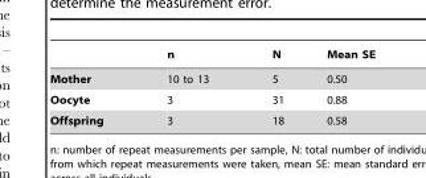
<table><thead><tr><td></td><td>n</td><td>N</td><td>Mean SE</td></tr></thead><tbody><tr><td>Mother</td><td>10 to 13</td><td>5</td><td>0.50</td></tr><tr><td>Oocyte</td><td>3</td><td>31</td><td>0.88</td></tr><tr><td>Offspring</td><td>3</td><td>18</td><td>0.58</td></tr></tbody></table>